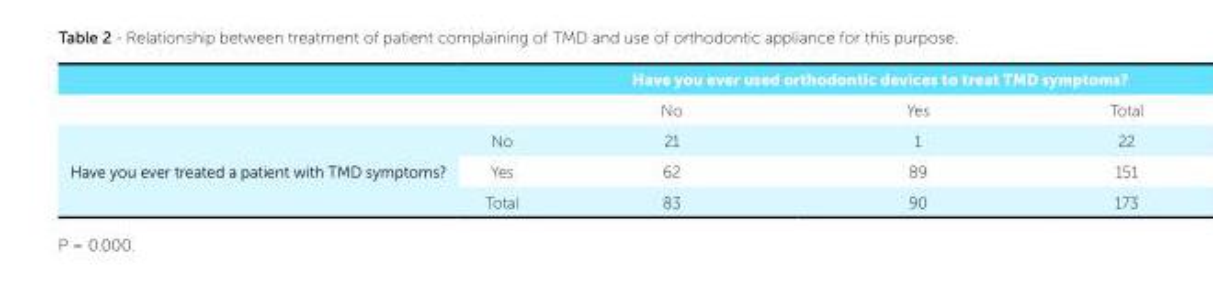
<table><thead><tr><td rowspan="2"></td><td rowspan="2"></td><td colspan="3">Have you ever used orthodontic devices to treat TMD symptoms?</td></tr><tr><td>No</td><td>Yes</td><td>Total</td></tr></thead><tbody><tr><td rowspan="3">Have you ever treated a patient with TMD symptoms?</td><td>No</td><td>21</td><td>1</td><td>22</td></tr><tr><td>Yes</td><td>62</td><td>89</td><td>151</td></tr><tr><td>Total</td><td>83</td><td>90</td><td>173</td></tr></tbody></table>